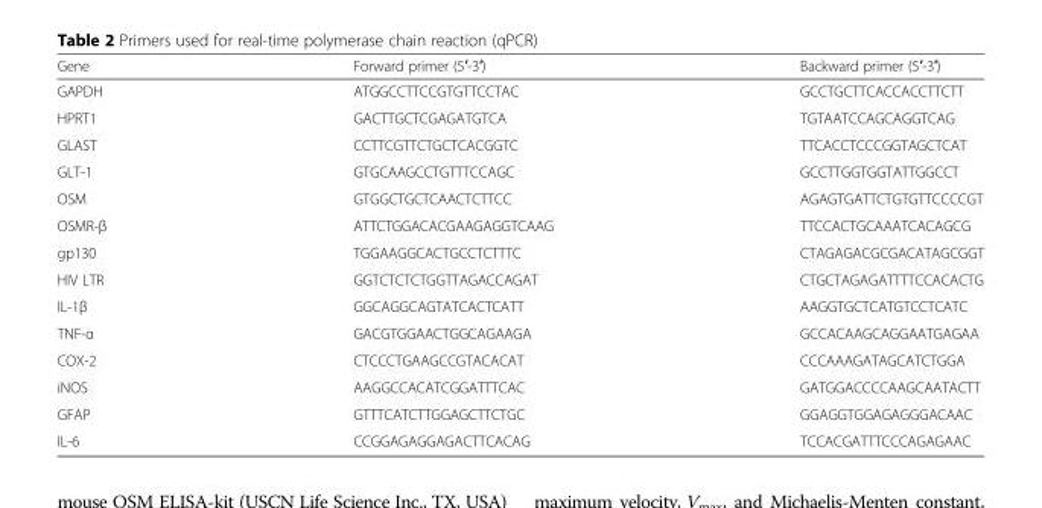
<table><thead><tr><td>Gene</td><td>Forward primer (5′-3′)</td><td>Backward primer (5′-3′)</td></tr></thead><tbody><tr><td>GAPDH</td><td>ATGGCCTTCCGTGTTCCTAC</td><td>GCCTGCTTCACCACCTTCTT</td></tr><tr><td>HPRT1</td><td>GACTTGCTCGAGATGTCA</td><td>TGTAATCCAGCAGGTCAG</td></tr><tr><td>GLAST</td><td>CCTTCGTTCTGCTCACGGTC</td><td>TTCACCTCCCGGTAGCTCAT</td></tr><tr><td>GLT-1</td><td>GTGCAAGCCTGTTTCCAGC</td><td>GCCTTGGTGGTATTGGCCT</td></tr><tr><td>OSM</td><td>GTGGCTGCTCAACTCTTCC</td><td>AGAGTGATTCTGTGTTCCCCGT</td></tr><tr><td>OSMR-β</td><td>ATTCTGGACACGAAGAGGTCAAG</td><td>TTCCACTGCAAATCACAGCG</td></tr><tr><td>gp130</td><td>TGGAAGGCACTGCCTCTTTC</td><td>CTAGAGACGCGACATAGCGGT</td></tr><tr><td>HIV LTR</td><td>GGTCTCTCTGGTTAGACCAGAT</td><td>CTGCTAGAGATTTTCCACACTG</td></tr><tr><td>IL-1β</td><td>GGCAGGCAGTATCACTCATT</td><td>AAGGTGCTCATGTCCTCATC</td></tr><tr><td>TNF-α</td><td>GACGTGGAACTGGCAGAAGA</td><td>GCCACAAGCAGGAATGAGAA</td></tr><tr><td>COX-2</td><td>CTCCCTGAAGCCGTACACAT</td><td>CCCAAAGATAGCATCTGGA</td></tr><tr><td>iNOS</td><td>AAGGCCACATCGGATTTCAC</td><td>GATGGACCCCAAGCAATACTT</td></tr><tr><td>GFAP</td><td>GTTTCATCTTGGAGCTTCTGC</td><td>GGAGGTGGAGAGGGACAAC</td></tr><tr><td>IL-6</td><td>CCGGAGAGGAGACTTCACAG</td><td>TCCACGATTTCCCAGAGAAC</td></tr></tbody></table>